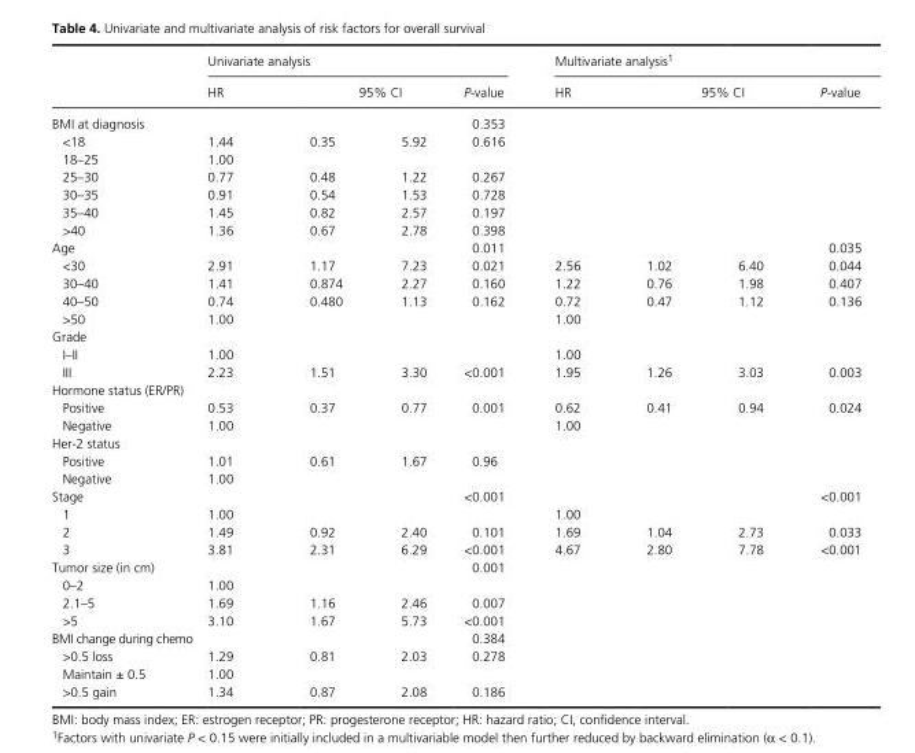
<table><thead><tr><td rowspan="3">BMI at diagnosis</td><td colspan="4">Univariate analysis</td><td colspan="4">Multivariate analysis1</td></tr><tr><td rowspan="2">HR</td><td colspan="2">95% CI</td><td rowspan="2">P- value 0.353</td><td rowspan="2">HR</td><td colspan="2">95% CI</td><td rowspan="2">P- value</td></tr><tr><td></td><td></td><td></td><td></td></tr></thead><tbody><tr><td>&lt;18</td><td>1.44</td><td>0.35</td><td>5.92</td><td>0.616</td><td></td><td></td><td></td><td></td></tr><tr><td>18–25</td><td>1.00</td><td></td><td></td><td></td><td></td><td></td><td></td><td></td></tr><tr><td>25–30</td><td>0.77</td><td>0.48</td><td>1.22</td><td>0.267</td><td></td><td></td><td></td><td></td></tr><tr><td>30–35</td><td>0.91</td><td>0.54</td><td>1.53</td><td>0.728</td><td></td><td></td><td></td><td></td></tr><tr><td>35–40</td><td>1.45</td><td>0.82</td><td>2.57</td><td>0.197</td><td></td><td></td><td></td><td></td></tr><tr><td>&gt;40</td><td>1.36</td><td>0.67</td><td>2.78</td><td>0.398</td><td></td><td></td><td></td><td></td></tr><tr><td>Age</td><td></td><td></td><td></td><td>0.011</td><td></td><td></td><td></td><td>0.035</td></tr><tr><td>&lt;30</td><td>2.91</td><td>1.17</td><td>7.23</td><td>0.021</td><td>2.56</td><td>1.02</td><td>6.40</td><td>0.044</td></tr><tr><td>30–40</td><td>1.41</td><td>0.874</td><td>2.27</td><td>0.160</td><td>1.22</td><td>0.76</td><td>1.98</td><td>0.407</td></tr><tr><td>40–50</td><td>0.74</td><td>0.480</td><td>1.13</td><td>0.162</td><td>0.72</td><td>0.47</td><td>1.12</td><td>0.136</td></tr><tr><td>&gt;50</td><td>1.00</td><td></td><td></td><td></td><td>1.00</td><td></td><td></td><td></td></tr><tr><td colspan="9">Grade</td></tr><tr><td>I–II</td><td>1.00</td><td></td><td></td><td></td><td>1.00</td><td></td><td></td><td></td></tr><tr><td>III</td><td>2.23</td><td>1.51</td><td>3.30</td><td>&lt;0.001</td><td>1.95</td><td>1.26</td><td>3.03</td><td>0.003</td></tr><tr><td colspan="9">Hormone status (ER/PR)</td></tr><tr><td>Positive</td><td>0.53</td><td>0.37</td><td>0.77</td><td>0.001</td><td>0.62</td><td>0.41</td><td>0.94</td><td>0.024</td></tr><tr><td>Negative</td><td>1.00</td><td></td><td></td><td></td><td>1.00</td><td></td><td></td><td></td></tr><tr><td colspan="9">Her- 2 status</td></tr><tr><td>Positive</td><td>1.01</td><td>0.61</td><td>1.67</td><td>0.96</td><td></td><td></td><td></td><td></td></tr><tr><td>Negative</td><td>1.00</td><td></td><td></td><td></td><td></td><td></td><td></td><td></td></tr><tr><td>Stage</td><td></td><td></td><td></td><td>&lt;0.001</td><td></td><td></td><td></td><td>&lt;0.001</td></tr><tr><td>1</td><td>1.00</td><td></td><td></td><td></td><td>1.00</td><td></td><td></td><td></td></tr><tr><td>2</td><td>1.49</td><td>0.92</td><td>2.40</td><td>0.101</td><td>1.69</td><td>1.04</td><td>2.73</td><td>0.033</td></tr><tr><td>3</td><td>3.81</td><td>2.31</td><td>6.29</td><td>&lt;0.001</td><td>4.67</td><td>2.80</td><td>7.78</td><td>&lt;0.001</td></tr><tr><td>Tumor size (in cm)</td><td></td><td></td><td></td><td>0.001</td><td></td><td></td><td></td><td></td></tr><tr><td>0–2</td><td>1.00</td><td></td><td></td><td></td><td></td><td></td><td></td><td></td></tr><tr><td>2.1–5</td><td>1.69</td><td>1.16</td><td>2.46</td><td>0.007</td><td></td><td></td><td></td><td></td></tr><tr><td>&gt;5</td><td>3.10</td><td>1.67</td><td>5.73</td><td>&lt;0.001</td><td></td><td></td><td></td><td></td></tr><tr><td>BMI change during chemo</td><td></td><td></td><td></td><td>0.384</td><td></td><td></td><td></td><td></td></tr><tr><td>&gt;0.5 loss</td><td>1.29</td><td>0.81</td><td>2.03</td><td>0.278</td><td></td><td></td><td></td><td></td></tr><tr><td>Maintain ± 0.5</td><td>1.00</td><td></td><td></td><td></td><td></td><td></td><td></td><td></td></tr><tr><td>&gt;0.5 gain</td><td>1.34</td><td>0.87</td><td>2.08</td><td>0.186</td><td></td><td></td><td></td><td></td></tr></tbody></table>